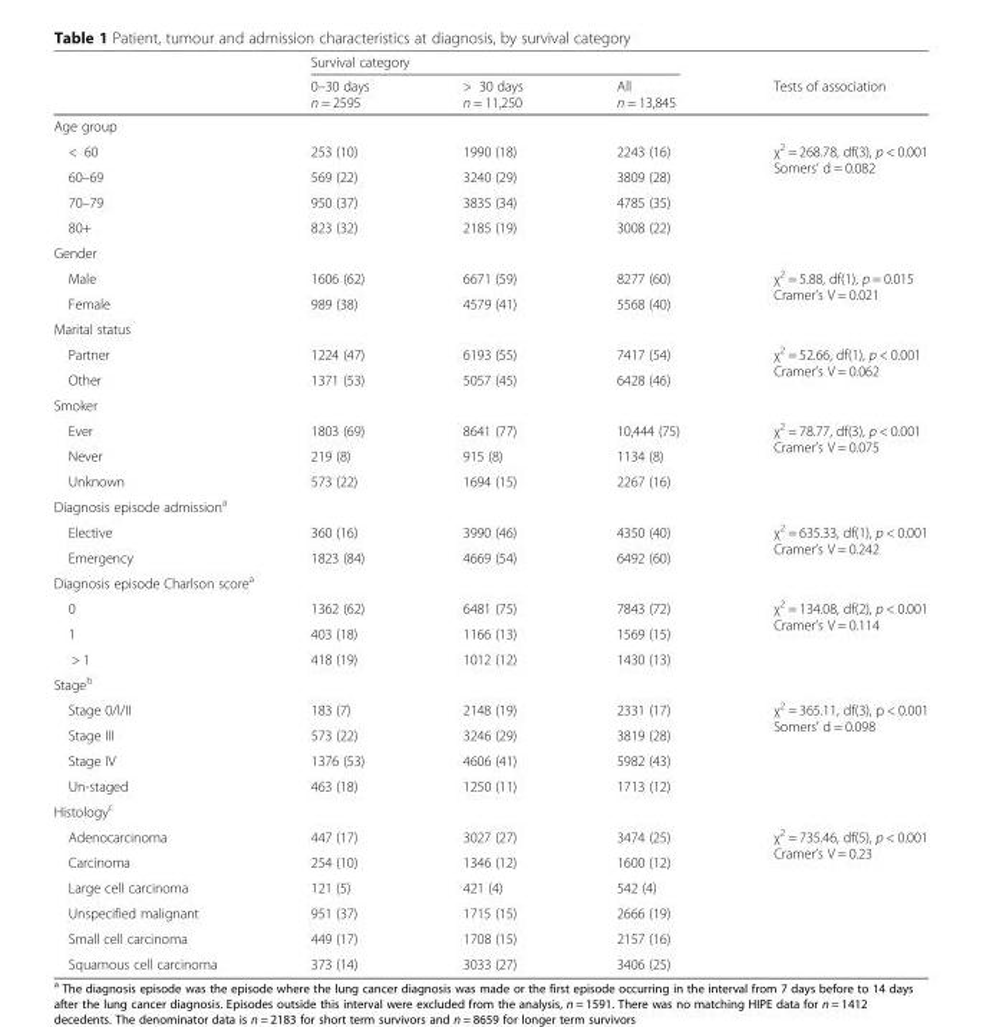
<table><thead><tr><td rowspan="2"></td><td colspan="3">Survival category</td><td rowspan="2">Tests of association</td></tr><tr><td>0–30 days n = 2595</td><td>&gt; 30 days n = 11,250</td><td>All n = 13,845</td></tr></thead><tbody><tr><td colspan="5">Age group</td></tr><tr><td>&lt; 60</td><td>253 (10)</td><td>1990 (18)</td><td>2243 (16)</td><td rowspan="4">χ<sup>2</sup> = 268.78, df(3), p &lt; 0.001 Somers’ d = 0.082</td></tr><tr><td>60–69</td><td>569 (22)</td><td>3240 (29)</td><td>3809 (28)</td></tr><tr><td>70–79</td><td>950 (37)</td><td>3835 (34)</td><td>4785 (35)</td></tr><tr><td>80+</td><td>823 (32)</td><td>2185 (19)</td><td>3008 (22)</td></tr><tr><td colspan="5">Gender</td></tr><tr><td>Male</td><td>1606 (62)</td><td>6671 (59)</td><td>8277 (60)</td><td rowspan="2">χ<sup>2</sup> = 5.88, df(1), p = 0.015 Cramer’s V = 0.021</td></tr><tr><td>Female</td><td>989 (38)</td><td>4579 (41)</td><td>5568 (40)</td></tr><tr><td colspan="5">Marital status</td></tr><tr><td>Partner</td><td>1224 (47)</td><td>6193 (55)</td><td>7417 (54)</td><td rowspan="2">χ<sup>2</sup> = 52.66, df(1), p &lt; 0.001 Cramer’s V = 0.062</td></tr><tr><td>Other</td><td>1371 (53)</td><td>5057 (45)</td><td>6428 (46)</td></tr><tr><td colspan="5">Smoker</td></tr><tr><td>Ever</td><td>1803 (69)</td><td>8641 (77)</td><td>10,444 (75)</td><td rowspan="3">χ<sup>2</sup> = 78.77, df(3), p &lt; 0.001 Cramer’s V = 0.075</td></tr><tr><td>Never</td><td>219 (8)</td><td>915 (8)</td><td>1134 (8)</td></tr><tr><td>Unknown</td><td>573 (22)</td><td>1694 (15)</td><td>2267 (16)</td></tr><tr><td colspan="5">Diagnosis episode admission<sup>a</sup></td></tr><tr><td>Elective</td><td>360 (16)</td><td>3990 (46)</td><td>4350 (40)</td><td rowspan="2">χ<sup>2</sup> = 635.33, df(1), p &lt; 0.001 Cramer’s V = 0.242</td></tr><tr><td>Emergency</td><td>1823 (84)</td><td>4669 (54)</td><td>6492 (60)</td></tr><tr><td colspan="5">Diagnosis episode Charlson score<sup>a</sup></td></tr><tr><td>0</td><td>1362 (62)</td><td>6481 (75)</td><td>7843 (72)</td><td rowspan="3">χ<sup>2</sup> = 134.08, df(2), p &lt; 0.001 Cramer’s V = 0.114</td></tr><tr><td>1</td><td>403 (18)</td><td>1166 (13)</td><td>1569 (15)</td></tr><tr><td>&gt; 1</td><td>418 (19)</td><td>1012 (12)</td><td>1430 (13)</td></tr><tr><td colspan="5">Stage<sup>b</sup></td></tr><tr><td>Stage 0/I/II</td><td>183 (7)</td><td>2148 (19)</td><td>2331 (17)</td><td rowspan="4">χ<sup>2</sup> = 365.11, df(3), p &lt; 0.001 Somers’ d = 0.098</td></tr><tr><td>Stage III</td><td>573 (22)</td><td>3246 (29)</td><td>3819 (28)</td></tr><tr><td>Stage IV</td><td>1376 (53)</td><td>4606 (41)</td><td>5982 (43)</td></tr><tr><td>Un-staged</td><td>463 (18)</td><td>1250 (11)</td><td>1713 (12)</td></tr><tr><td colspan="5">Histology<sup>c</sup></td></tr><tr><td>Adenocarcinoma</td><td>447 (17)</td><td>3027 (27)</td><td>3474 (25)</td><td rowspan="6">χ<sup>2</sup> = 735.46, df(5), p &lt; 0.001 Cramer’s V = 0.23</td></tr><tr><td>Carcinoma</td><td>254 (10)</td><td>1346 (12)</td><td>1600 (12)</td></tr><tr><td>Large cell carcinoma</td><td>121 (5)</td><td>421 (4)</td><td>542 (4)</td></tr><tr><td>Unspecified malignant</td><td>951 (37)</td><td>1715 (15)</td><td>2666 (19)</td></tr><tr><td>Small cell carcinoma</td><td>449 (17)</td><td>1708 (15)</td><td>2157 (16)</td></tr><tr><td>Squamous cell carcinoma</td><td>373 (14)</td><td>3033 (27)</td><td>3406 (25)</td></tr></tbody></table>